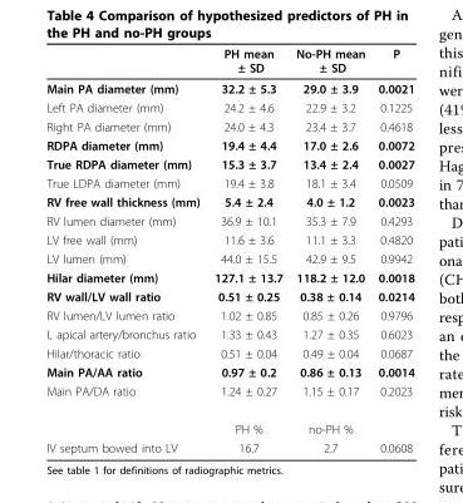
<table><thead><tr><td></td><td>PH mean ± SD</td><td>No-PH mean ± SD</td><td>P</td></tr></thead><tbody><tr><td>Main PA diameter (mm)</td><td>32.2 ± 5.3</td><td>29.0 ± 3.9</td><td>0.0021</td></tr><tr><td>Left PA diameter (mm)</td><td>24.2 ± 4.6</td><td>22.9 ± 3.2</td><td>0.1225</td></tr><tr><td>Right PA diameter (mm)</td><td>24.0 ± 4.3</td><td>23.4 ± 3.7</td><td>0.4618</td></tr><tr><td>RDPA diameter (mm)</td><td>19.4 ± 4.4</td><td>17.0 ± 2.6</td><td>0.0072</td></tr><tr><td>True RDPA diameter (mm)</td><td>15.3 ± 3.7</td><td>13.4 ± 2.4</td><td>0.0027</td></tr><tr><td>True LDPA diameter (mm)</td><td>19.4 ± 3.8</td><td>18.1 ± 3.4</td><td>0.0509</td></tr><tr><td>RV free wall thickness (mm)</td><td>5.4 ± 2.4</td><td>4.0 ± 1.2</td><td>0.0023</td></tr><tr><td>RV lumen diameter (mm)</td><td>36.9 ± 10.1</td><td>35.3 ± 7.9</td><td>0.4293</td></tr><tr><td>LV free wall (mm)</td><td>11.6 ± 3.6</td><td>11.1 ± 3.3</td><td>0.4820</td></tr><tr><td>LV lumen (mm)</td><td>44.0 ± 15.5</td><td>42.9 ± 9.5</td><td>0.9942</td></tr><tr><td>Hilar diameter (mm)</td><td>127.1 ± 13.7</td><td>118.2 ± 12.0</td><td>0.0018</td></tr><tr><td>RV wall/LV wall ratio</td><td>0.51 ± 0.25</td><td>0.38 ± 0.14</td><td>0.0214</td></tr><tr><td>RV lumen/LV lumen ratio</td><td>1.02 ± 0.85</td><td>0.85 ± 0.26</td><td>0.9796</td></tr><tr><td>L apical artery/bronchus ratio</td><td>1.33 ± 0.43</td><td>1.27 ± 0.35</td><td>0.6023</td></tr><tr><td>Hilar/thoracic ratio</td><td>0.51 ± 0.04</td><td>0.49 ± 0.04</td><td>0.0687</td></tr><tr><td>Main PA/AA ratio</td><td>0.97 ± 0.2</td><td>0.86 ± 0.13</td><td>0.0014</td></tr><tr><td rowspan="2">Main PA/DA ratio</td><td>1.24 ± 0.27</td><td>1.15 ± 0.17</td><td>0.2023</td></tr><tr><td>PH %</td><td>no-PH %</td><td></td></tr><tr><td>IV septum bowed into LV</td><td>16.7</td><td>2.7</td><td>0.0608</td></tr></tbody></table>